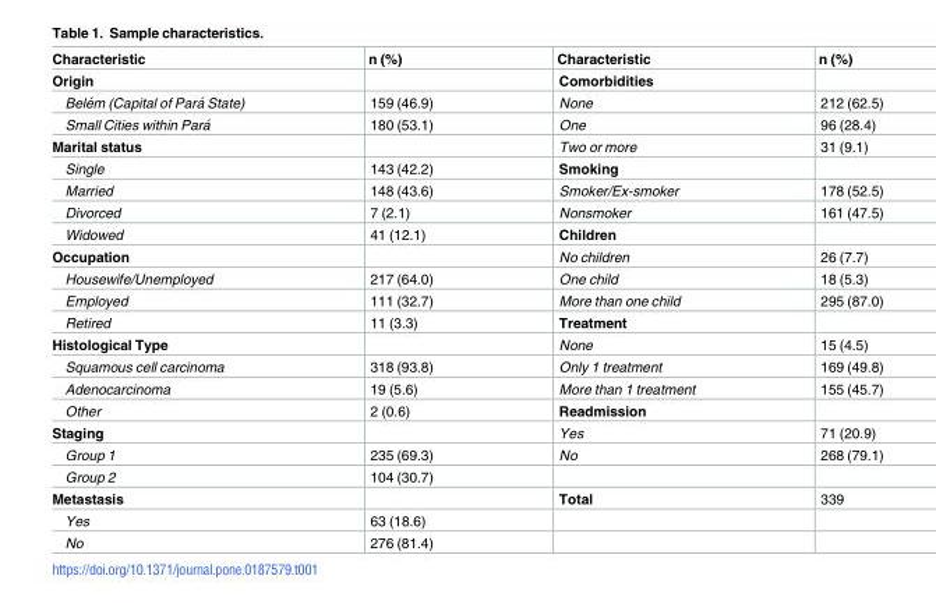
<table><thead><tr><td>Characteristic</td><td>n (%)</td><td>Characteristic</td><td>n (%)</td></tr></thead><tbody><tr><td>Origin</td><td></td><td>Comorbidities</td><td></td></tr><tr><td>Bele´m (Capital of Para´ State)</td><td>159 (46.9)</td><td>None</td><td>212 (62.5)</td></tr><tr><td>Small Cities within Para´</td><td>180 (53.1)</td><td>One</td><td>96 (28.4)</td></tr><tr><td>Marital status</td><td></td><td>Two or more</td><td>31 (9.1)</td></tr><tr><td>Single</td><td>143 (42.2)</td><td>Smoking</td><td></td></tr><tr><td>Married</td><td>148 (43.6)</td><td>Smoker/Ex-smoker</td><td>178 (52.5)</td></tr><tr><td>Divorced</td><td>7 (2.1)</td><td>Nonsmoker</td><td>161 (47.5)</td></tr><tr><td>Widowed</td><td>41 (12.1)</td><td>Children</td><td></td></tr><tr><td>Occupation</td><td></td><td>No children</td><td>26 (7.7)</td></tr><tr><td>Housewife/Unemployed</td><td>217 (64.0)</td><td>One child</td><td>18 (5.3)</td></tr><tr><td>Employed</td><td>111 (32.7)</td><td>More than one child</td><td>295 (87.0)</td></tr><tr><td>Retired</td><td>11 (3.3)</td><td>Treatment</td><td></td></tr><tr><td>Histological Type</td><td></td><td>None</td><td>15 (4.5)</td></tr><tr><td>Squamous cell carcinoma</td><td>318 (93.8)</td><td>Only 1 treatment</td><td>169 (49.8)</td></tr><tr><td>Adenocarcinoma</td><td>19 (5.6)</td><td>More than 1 treatment</td><td>155 (45.7)</td></tr><tr><td>Other</td><td>2 (0.6)</td><td>Readmission</td><td></td></tr><tr><td>Staging</td><td></td><td>Yes</td><td>71 (20.9)</td></tr><tr><td>Group 1</td><td>235 (69.3)</td><td>No</td><td>268 (79.1)</td></tr><tr><td>Group 2</td><td>104 (30.7)</td><td></td><td></td></tr><tr><td>Metastasis</td><td></td><td>Total</td><td>339</td></tr><tr><td>Yes</td><td>63 (18.6)</td><td></td><td></td></tr><tr><td>No</td><td>276 (81.4)</td><td></td><td></td></tr></tbody></table>